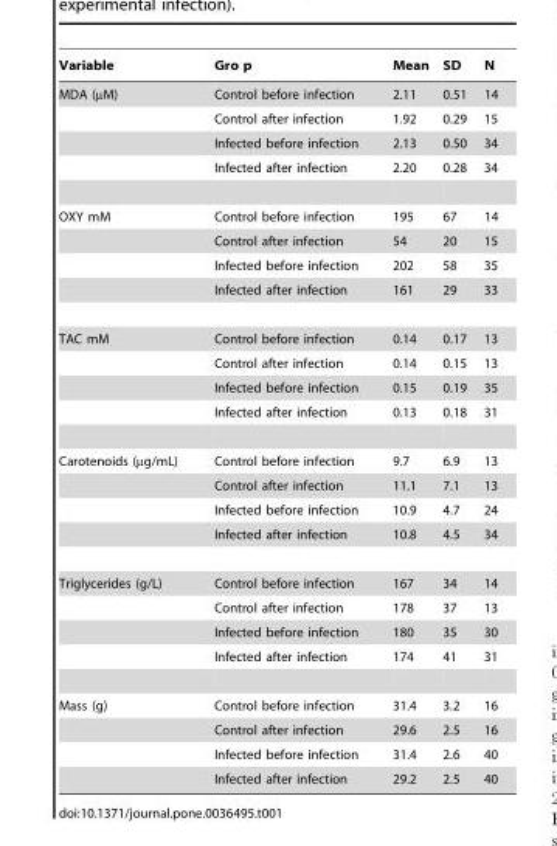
<table><thead><tr><td>Variable</td><td>Gro p</td><td>Mean</td><td>SD</td><td>N</td></tr></thead><tbody><tr><td rowspan="4">MDA (µM)</td><td>Control before infection</td><td>2.11</td><td>0.51</td><td>14</td></tr><tr><td>Control after infection</td><td>1.92</td><td>0.29</td><td>15</td></tr><tr><td>Infected before infection</td><td>2.13</td><td>0.50</td><td>34</td></tr><tr><td>Infected after infection</td><td>2.20</td><td>0.28</td><td>34</td></tr><tr><td rowspan="4">OXY mM</td><td>Control before infection</td><td>195</td><td>67</td><td>14</td></tr><tr><td>Control after infection</td><td>54</td><td>20</td><td>15</td></tr><tr><td>Infected before infection</td><td>202</td><td>58</td><td>35</td></tr><tr><td>Infected after infection</td><td>161</td><td>29</td><td>33</td></tr><tr><td rowspan="4">TAC mM</td><td>Control before infection</td><td>0.14</td><td>0.17</td><td>13</td></tr><tr><td>Control after infection</td><td>0.14</td><td>0.15</td><td>13</td></tr><tr><td>Infected before infection</td><td>0.15</td><td>0.19</td><td>35</td></tr><tr><td>Infected after infection</td><td>0.13</td><td>0.18</td><td>31</td></tr><tr><td rowspan="4">Carotenoids (µg/mL)</td><td>Control before infection</td><td>9.7</td><td>6.9</td><td>13</td></tr><tr><td>Control after infection</td><td>11.1</td><td>7.1</td><td>13</td></tr><tr><td>Infected before infection</td><td>10.9</td><td>4.7</td><td>24</td></tr><tr><td>Infected after infection</td><td>10.8</td><td>4.5</td><td>34</td></tr><tr><td rowspan="4">Triglycerides (g/L)</td><td>Control before infection</td><td>167</td><td>34</td><td>14</td></tr><tr><td>Control after infection</td><td>178</td><td>37</td><td>13</td></tr><tr><td>Infected before infection</td><td>180</td><td>35</td><td>30</td></tr><tr><td>Infected after infection</td><td>174</td><td>41</td><td>31</td></tr><tr><td rowspan="4">Mass (g)</td><td>Control before infection</td><td>31.4</td><td>3.2</td><td>16</td></tr><tr><td>Control after infection</td><td>29.6</td><td>2.5</td><td>16</td></tr><tr><td>Infected before infection</td><td>31.4</td><td>2.6</td><td>40</td></tr><tr><td>Infected after infection</td><td>29.2</td><td>2.5</td><td>40</td></tr></tbody></table>